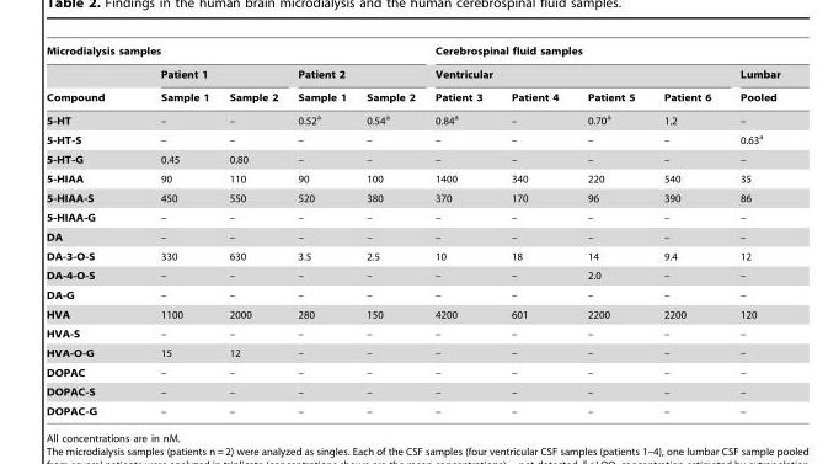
<table><thead><tr><td colspan="5">Microdialysis samples</td><td colspan="5">Cerebrospinal fluid samples</td></tr><tr><td rowspan="2">Compound</td><td colspan="2">Patient 1</td><td colspan="2">Patient 2</td><td colspan="4">Ventricular</td><td rowspan="2">Lumbar Pooled</td></tr><tr><td>Sample 1</td><td>Sample 2</td><td>Sample 1</td><td>Sample 2</td><td>Patient 3</td><td>Patient 4</td><td>Patient 5</td><td>Patient 6</td></tr></thead><tbody><tr><td>5-HT</td><td>–</td><td>–</td><td>0.52<sup>a</sup></td><td>0.54<sup>a</sup></td><td>0.84<sup>a</sup></td><td>–</td><td>0.70<sup>a</sup></td><td>1.2</td><td>–</td></tr><tr><td>5-HT-S</td><td>–</td><td>–</td><td>–</td><td>–</td><td>–</td><td>–</td><td>–</td><td>–</td><td>0.63<sup>a</sup></td></tr><tr><td>5-HT-G</td><td>0.45</td><td>0.80</td><td>–</td><td>–</td><td>–</td><td>–</td><td>–</td><td>–</td><td>–</td></tr><tr><td>5-HIAA</td><td>90</td><td>110</td><td>90</td><td>100</td><td>1400</td><td>340</td><td>220</td><td>540</td><td>35</td></tr><tr><td>5-HIAA-S</td><td>450</td><td>550</td><td>520</td><td>380</td><td>370</td><td>170</td><td>96</td><td>390</td><td>86</td></tr><tr><td>5-HIAA-G</td><td>–</td><td>–</td><td>–</td><td>–</td><td>–</td><td>–</td><td>–</td><td>–</td><td>–</td></tr><tr><td>DA</td><td>–</td><td>–</td><td>–</td><td>–</td><td>–</td><td>–</td><td>–</td><td>–</td><td>–</td></tr><tr><td>DA-3-O-S</td><td>330</td><td>630</td><td>3.5</td><td>2.5</td><td>10</td><td>18</td><td>14</td><td>9.4</td><td>12</td></tr><tr><td>DA-4-O-S</td><td>–</td><td>–</td><td>–</td><td>–</td><td>–</td><td>–</td><td>2.0</td><td>–</td><td>–</td></tr><tr><td>DA-G</td><td>–</td><td>–</td><td>–</td><td>–</td><td>–</td><td>–</td><td>–</td><td>–</td><td>–</td></tr><tr><td>HVA</td><td>1100</td><td>2000</td><td>280</td><td>150</td><td>4200</td><td>601</td><td>2200</td><td>2200</td><td>120</td></tr><tr><td>HVA-S</td><td>–</td><td>–</td><td>–</td><td>–</td><td>–</td><td>–</td><td>–</td><td>–</td><td>–</td></tr><tr><td>HVA-O-G</td><td>15</td><td>12</td><td>–</td><td>–</td><td>–</td><td>–</td><td>–</td><td>–</td><td>–</td></tr><tr><td>DOPAC</td><td>–</td><td>–</td><td>–</td><td>–</td><td>–</td><td>–</td><td>–</td><td>–</td><td>–</td></tr><tr><td>DOPAC-S</td><td>–</td><td>–</td><td>–</td><td>–</td><td>–</td><td>–</td><td>–</td><td>–</td><td>–</td></tr><tr><td>DOPAC-G</td><td>–</td><td>–</td><td>–</td><td>–</td><td>–</td><td>–</td><td>–</td><td>–</td><td>–</td></tr></tbody></table>